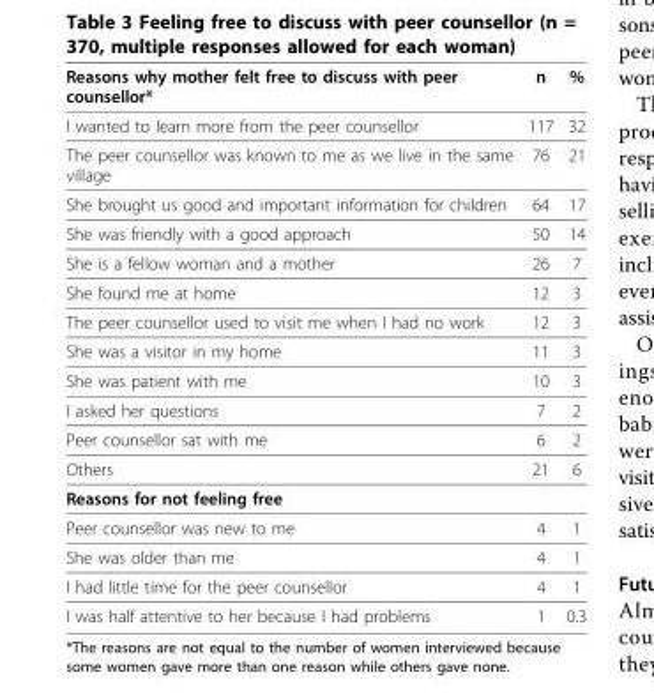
<table><thead><tr><td>Reasons why mother felt free to discuss with peer counsellor*</td><td>n</td><td>%</td></tr></thead><tbody><tr><td>I wanted to learn more from the peer counsellor</td><td>117</td><td>32</td></tr><tr><td>The peer counsellor was known to me as we live in the same village</td><td>76</td><td>21</td></tr><tr><td>She brought us good and important information for children</td><td>64</td><td>17</td></tr><tr><td>She was friendly with a good approach</td><td>50</td><td>14</td></tr><tr><td>She is a fellow woman and a mother</td><td>26</td><td>7</td></tr><tr><td>She found me at home</td><td>12</td><td>3</td></tr><tr><td>The peer counsellor used to visit me when I had no work</td><td>12</td><td>3</td></tr><tr><td>She was a visitor in my home</td><td>11</td><td>3</td></tr><tr><td>She was patient with me</td><td>10</td><td>3</td></tr><tr><td>I asked her questions</td><td>7</td><td>2</td></tr><tr><td>Peer counsellor sat with me</td><td>6</td><td>2</td></tr><tr><td>Others</td><td>21</td><td>6</td></tr><tr><td colspan="3">Reasons for not feeling free</td></tr><tr><td>Peer counsellor was new to me</td><td>4</td><td>1</td></tr><tr><td>She was older than me</td><td>4</td><td>1</td></tr><tr><td>I had little time for the peer counsellor</td><td>4</td><td>1</td></tr><tr><td>I was half attentive to her because I had problems</td><td>1</td><td>0.3</td></tr></tbody></table>